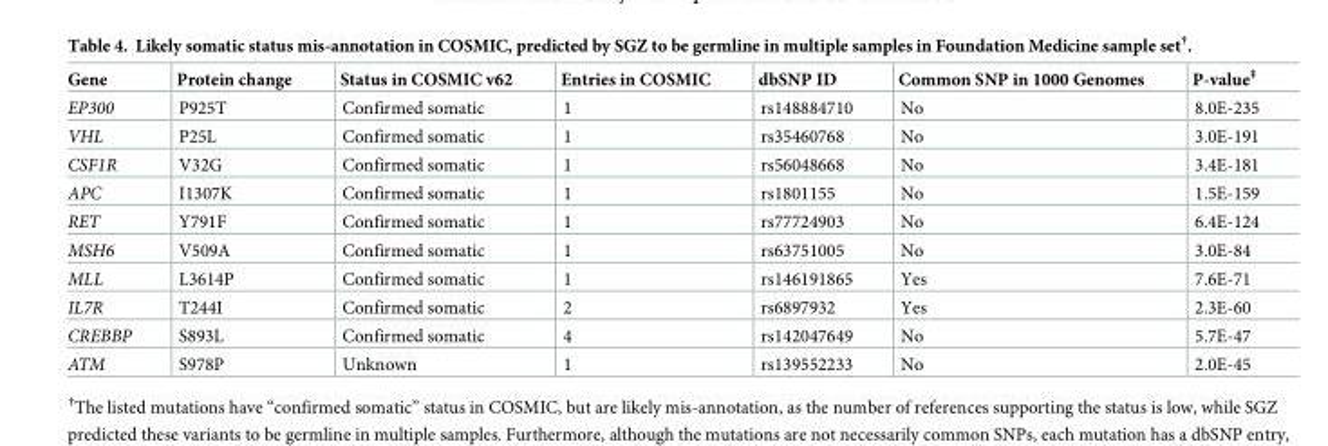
<table><thead><tr><td>Gene</td><td>Protein change</td><td>Status in COSMIC v62</td><td>Entries in COSMIC</td><td>dbSNP ID</td><td>Common SNP in 1000 Genomes</td><td>P-value<sup>‡</sup></td></tr></thead><tbody><tr><td>EP300</td><td>P925T</td><td>Confirmed somatic</td><td>1</td><td>rs148884710</td><td>No</td><td>8.0E-235</td></tr><tr><td>VHL</td><td>P25L</td><td>Confirmed somatic</td><td>1</td><td>rs35460768</td><td>No</td><td>3.0E-191</td></tr><tr><td>CSF1R</td><td>V32G</td><td>Confirmed somatic</td><td>1</td><td>rs56048668</td><td>No</td><td>3.4E-181</td></tr><tr><td>APC</td><td>I1307K</td><td>Confirmed somatic</td><td>1</td><td>rs1801155</td><td>No</td><td>1.5E-159</td></tr><tr><td>RET</td><td>Y791F</td><td>Confirmed somatic</td><td>1</td><td>rs77724903</td><td>No</td><td>6.4E-124</td></tr><tr><td>MSH6</td><td>V509A</td><td>Confirmed somatic</td><td>1</td><td>rs63751005</td><td>No</td><td>3.0E-84</td></tr><tr><td>MLL</td><td>L3614P</td><td>Confirmed somatic</td><td>1</td><td>rs146191865</td><td>Yes</td><td>7.6E-71</td></tr><tr><td>IL7R</td><td>T244I</td><td>Confirmed somatic</td><td>2</td><td>rs6897932</td><td>Yes</td><td>2.3E-60</td></tr><tr><td>CREBBP</td><td>S893L</td><td>Confirmed somatic</td><td>4</td><td>rs142047649</td><td>No</td><td>5.7E-47</td></tr><tr><td>ATM</td><td>S978P</td><td>Unknown</td><td>1</td><td>rs139552233</td><td>No</td><td>2.0E-45</td></tr></tbody></table>